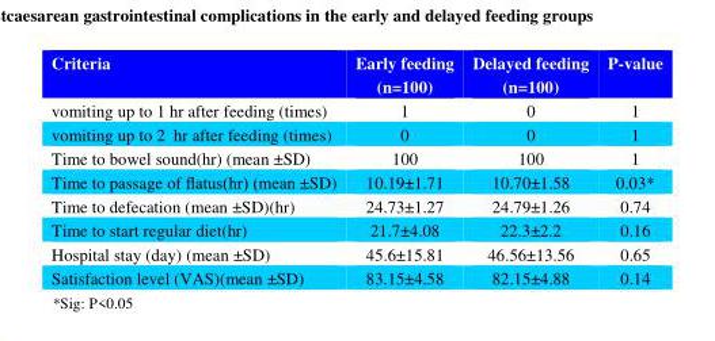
<table><thead><tr><td>Criteria</td><td>Early feeding (n=100)</td><td>Delayed feeding (n=100)</td><td>P-value</td></tr></thead><tbody><tr><td>vomiting up to 1 hr after feeding (times)</td><td>1</td><td>0</td><td>1</td></tr><tr><td>vomiting up to 2 hr after feeding (times)</td><td>0</td><td>0</td><td>1</td></tr><tr><td>Time to bowel sound(hr) (mean ±SD)</td><td>100</td><td>100</td><td>1</td></tr><tr><td>Time to passage of flatus(hr) (mean ±SD)</td><td>10.19±1.71</td><td>10.70±1.58</td><td>0.03*</td></tr><tr><td>Time to defecation (mean ±SD)(hr)</td><td>24.73±1.27</td><td>24.79±1.26</td><td>0.74</td></tr><tr><td>Time to start regular diet(hr)</td><td>21.7±4.08</td><td>22.3±2.2</td><td>0.16</td></tr><tr><td>Hospital stay (day) (mean ±SD)</td><td>45.6±15.81</td><td>46.56±13.56</td><td>0.65</td></tr><tr><td>Satisfaction level (VAS)(mean ±SD)</td><td>83.15±4.58</td><td>82.15±4.88</td><td>0.14</td></tr></tbody></table>